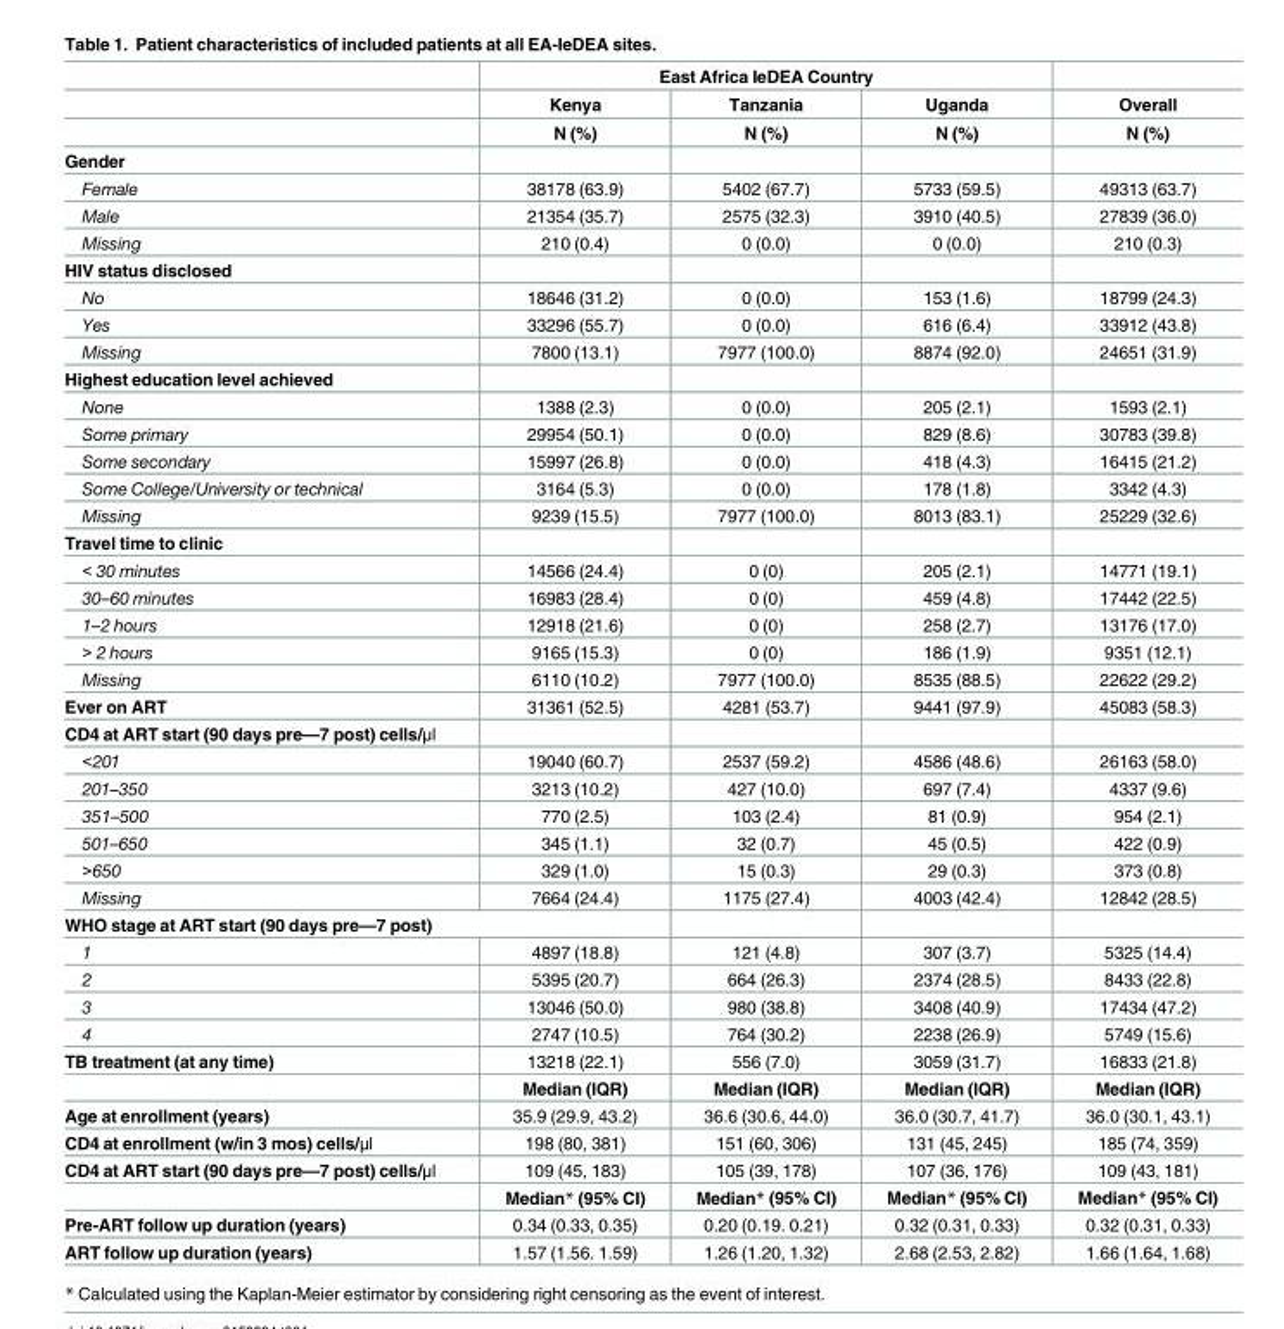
<table><thead><tr><td rowspan="3"></td><td colspan="3">East Africa IeDEA Country</td><td rowspan="3">Overall N (%)</td></tr><tr><td rowspan="2">Kenya N (%)</td><td rowspan="2">Tanzania N (%)</td><td rowspan="2">Uganda N (%)</td></tr><tr></tr></thead><tbody><tr><td colspan="5">Gender</td></tr><tr><td>Female</td><td>38178 (63.9)</td><td>5402 (67.7)</td><td>5733 (59.5)</td><td>49313 (63.7)</td></tr><tr><td>Male</td><td>21354 (35.7)</td><td>2575 (32.3)</td><td>3910 (40.5)</td><td>27839 (36.0)</td></tr><tr><td>Missing</td><td>210 (0.4)</td><td>0 (0.0)</td><td>0 (0.0)</td><td>210 (0.3)</td></tr><tr><td colspan="5">HIV status disclosed</td></tr><tr><td>No</td><td>18646 (31.2)</td><td>0 (0.0)</td><td>153 (1.6)</td><td>18799 (24.3)</td></tr><tr><td>Yes</td><td>33296 (55.7)</td><td>0 (0.0)</td><td>616 (6.4)</td><td>33912 (43.8)</td></tr><tr><td>Missing</td><td>7800 (13.1)</td><td>7977 (100.0)</td><td>8874 (92.0)</td><td>24651 (31.9)</td></tr><tr><td colspan="5">Highest education level achieved</td></tr><tr><td>None</td><td>1388 (2.3)</td><td>0 (0.0)</td><td>205 (2.1)</td><td>1593 (2.1)</td></tr><tr><td>Some primary</td><td>29954 (50.1)</td><td>0 (0.0)</td><td>829 (8.6)</td><td>30783 (39.8)</td></tr><tr><td>Some secondary</td><td>15997 (26.8)</td><td>0 (0.0)</td><td>418 (4.3)</td><td>16415 (21.2)</td></tr><tr><td>Some College/University or technical</td><td>3164 (5.3)</td><td>0 (0.0)</td><td>178 (1.8)</td><td>3342 (4.3)</td></tr><tr><td>Missing</td><td>9239 (15.5)</td><td>7977 (100.0)</td><td>8013 (83.1)</td><td>25229 (32.6)</td></tr><tr><td colspan="5">Travel time to clinic</td></tr><tr><td>&lt; 30 minutes</td><td>14566 (24.4)</td><td>0 (0)</td><td>205 (2.1)</td><td>14771 (19.1)</td></tr><tr><td>30–60 minutes</td><td>16983 (28.4)</td><td>0 (0)</td><td>459 (4.8)</td><td>17442 (22.5)</td></tr><tr><td>1–2 hours</td><td>12918 (21.6)</td><td>0 (0)</td><td>258 (2.7)</td><td>13176 (17.0)</td></tr><tr><td>&gt; 2 hours</td><td>9165 (15.3)</td><td>0 (0)</td><td>186 (1.9)</td><td>9351 (12.1)</td></tr><tr><td>Missing</td><td>6110 (10.2)</td><td>7977 (100.0)</td><td>8535 (88.5)</td><td>22622 (29.2)</td></tr><tr><td>Ever on ART</td><td>31361 (52.5)</td><td>4281 (53.7)</td><td>9441 (97.9)</td><td>45083 (58.3)</td></tr><tr><td colspan="5">CD4 at ART start (90 days pre—7 post) cells/μl</td></tr><tr><td>&lt;201</td><td>19040 (60.7)</td><td>2537 (59.2)</td><td>4586 (48.6)</td><td>26163 (58.0)</td></tr><tr><td>201–350</td><td>3213 (10.2)</td><td>427 (10.0)</td><td>697 (7.4)</td><td>4337 (9.6)</td></tr><tr><td>351–500</td><td>770 (2.5)</td><td>103 (2.4)</td><td>81 (0.9)</td><td>954 (2.1)</td></tr><tr><td>501–650</td><td>345 (1.1)</td><td>32 (0.7)</td><td>45 (0.5)</td><td>422 (0.9)</td></tr><tr><td>&gt;650</td><td>329 (1.0)</td><td>15 (0.3)</td><td>29 (0.3)</td><td>373 (0.8)</td></tr><tr><td>Missing</td><td>7664 (24.4)</td><td>1175 (27.4)</td><td>4003 (42.4)</td><td>12842 (28.5)</td></tr><tr><td colspan="5">WHO stage at ART start (90 days pre—7 post)</td></tr><tr><td>1</td><td>4897 (18.8)</td><td>121 (4.8)</td><td>307 (3.7)</td><td>5325 (14.4)</td></tr><tr><td>2</td><td>5395 (20.7)</td><td>664 (26.3)</td><td>2374 (28.5)</td><td>8433 (22.8)</td></tr><tr><td>3</td><td>13046 (50.0)</td><td>980 (38.8)</td><td>3408 (40.9)</td><td>17434 (47.2)</td></tr><tr><td>4</td><td>2747 (10.5)</td><td>764 (30.2)</td><td>2238 (26.9)</td><td>5749 (15.6)</td></tr><tr><td rowspan="2">TB treatment (at any time)</td><td>13218 (22.1)</td><td>556 (7.0)</td><td>3059 (31.7)</td><td>16833 (21.8)</td></tr><tr><td>Median (IQR)</td><td>Median (IQR)</td><td>Median (IQR)</td><td>Median (IQR)</td></tr><tr><td>Age at enrollment (years)</td><td>35.9 (29.9, 43.2)</td><td>36.6 (30.6, 44.0)</td><td>36.0 (30.7, 41.7)</td><td>36.0 (30.1, 43.1)</td></tr><tr><td>CD4 at enrollment (w/in 3 mos) cells/μl</td><td>198 (80, 381)</td><td>151 (60, 306)</td><td>131 (45, 245)</td><td>185 (74, 359)</td></tr><tr><td rowspan="2">CD4 at ART start (90 days pre—7 post) cells/μl</td><td>109 (45, 183)</td><td>105 (39, 178)</td><td>107 (36, 176)</td><td>109 (43, 181)</td></tr><tr><td>Median* (95% CI)</td><td>Median* (95% CI)</td><td>Median* (95% CI)</td><td>Median* (95% CI)</td></tr><tr><td>Pre-ART follow up duration (years)</td><td>0.34 (0.33, 0.35)</td><td>0.20 (0.19. 0.21)</td><td>0.32 (0.31, 0.33)</td><td>0.32 (0.31, 0.33)</td></tr><tr><td>ART follow up duration (years)</td><td>1.57 (1.56. 1.59)</td><td>1.26 (1.20, 1.32)</td><td>2.68 (2.53, 2.82)</td><td>1.66 (1.64, 1.68)</td></tr></tbody></table>